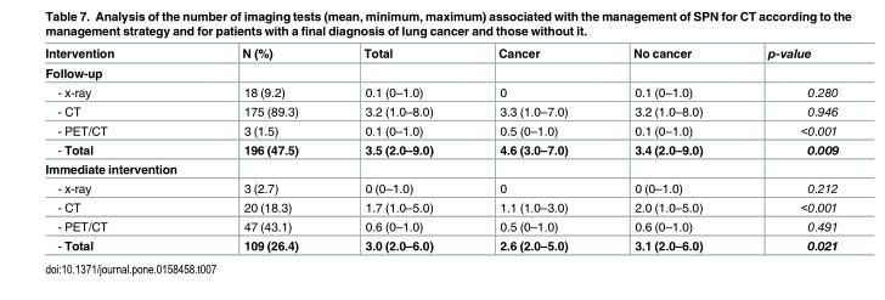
<table><thead><tr><td>Intervention</td><td>N (%)</td><td>Total</td><td>Cancer</td><td>No cancer</td><td>p-value</td></tr></thead><tbody><tr><td colspan="6">Follow-up</td></tr><tr><td>- x-ray</td><td>18 (9.2)</td><td>0.1 (0–1.0)</td><td>0</td><td>0.1 (0–1.0)</td><td>0.280</td></tr><tr><td>- CT</td><td>175 (89.3)</td><td>3.2 (1.0–8.0)</td><td>3.3 (1.0–7.0)</td><td>3.2 (1.0–8.0)</td><td>0.946</td></tr><tr><td>- PET/CT</td><td>3 (1.5)</td><td>0.1 (0–1.0)</td><td>0.5 (0–1.0)</td><td>0.1 (0–1.0)</td><td>&lt;0.001</td></tr><tr><td>- Total</td><td>196 (47.5)</td><td>3.5 (2.0–9.0)</td><td>4.6 (3.0–7.0)</td><td>3.4 (2.0–9.0)</td><td>0.009</td></tr><tr><td colspan="6">Immediate intervention</td></tr><tr><td>- x-ray</td><td>3 (2.7)</td><td>0 (0–1.0)</td><td>0</td><td>0 (0–1.0)</td><td>0.212</td></tr><tr><td>- CT</td><td>20 (18.3)</td><td>1.7 (1.0–5.0)</td><td>1.1 (1.0–3.0)</td><td>2.0 (1.0–5.0)</td><td>&lt;0.001</td></tr><tr><td>- PET/CT</td><td>47 (43.1)</td><td>0.6 (0–1.0)</td><td>0.5 (0–1.0)</td><td>0.6 (0–1.0)</td><td>0.491</td></tr><tr><td>- Total</td><td>109 (26.4)</td><td>3.0 (2.0–6.0)</td><td>2.6 (2.0–5.0)</td><td>3.1 (2.0–6.0)</td><td>0.021</td></tr></tbody></table>